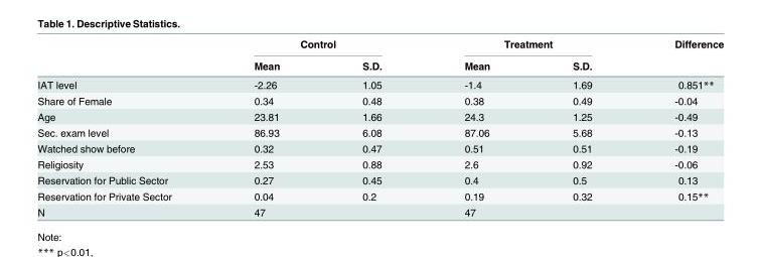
<table><thead><tr><td rowspan="2"></td><td colspan="2">Control</td><td colspan="2">Treatment</td><td rowspan="2">Difference</td></tr><tr><td>Mean</td><td>S.D.</td><td>Mean</td><td>S.D.</td></tr></thead><tbody><tr><td>IAT level</td><td>-2.26</td><td>1.05</td><td>-1.4</td><td>1.69</td><td>0.851**</td></tr><tr><td>Share of Female</td><td>0.34</td><td>0.48</td><td>0.38</td><td>0.49</td><td>-0.04</td></tr><tr><td>Age</td><td>23.81</td><td>1.66</td><td>24.3</td><td>1.25</td><td>-0.49</td></tr><tr><td>Sec. exam level</td><td>86.93</td><td>6.08</td><td>87.06</td><td>5.68</td><td>-0.13</td></tr><tr><td>Watched show before</td><td>0.32</td><td>0.47</td><td>0.51</td><td>0.51</td><td>-0.19</td></tr><tr><td>Religiosity</td><td>2.53</td><td>0.88</td><td>2.6</td><td>0.92</td><td>-0.06</td></tr><tr><td>Reservation for Public Sector</td><td>0.27</td><td>0.45</td><td>0.4</td><td>0.5</td><td>0.13</td></tr><tr><td>Reservation for Private Sector</td><td>0.04</td><td>0.2</td><td>0.19</td><td>0.32</td><td>0.15**</td></tr><tr><td>N</td><td colspan="2">47</td><td colspan="2">47</td><td></td></tr></tbody></table>